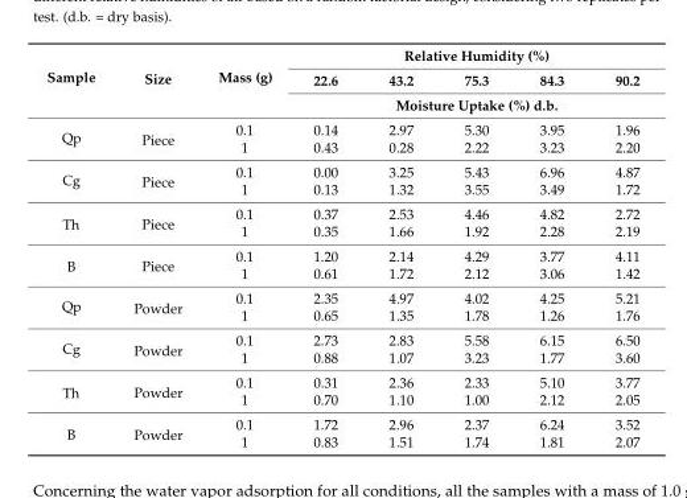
<table><thead><tr><td rowspan="3">Sample</td><td rowspan="3">Size</td><td rowspan="3">Mass (g)</td><td colspan="5">Relative Humidity (%)</td></tr><tr><td>22.6</td><td>43.2</td><td>75.3</td><td>84.3</td><td>90.2</td></tr><tr><td colspan="5">Moisture Uptake (%) d.b.</td></tr></thead><tbody><tr><td rowspan="2">Qp</td><td rowspan="2">Piece</td><td>0.1</td><td>0.14</td><td>2.97</td><td>5.30</td><td>3.95</td><td>1.96</td></tr><tr><td>1</td><td>0.43</td><td>0.28</td><td>2.22</td><td>3.23</td><td>2.20</td></tr><tr><td rowspan="2">Cg</td><td rowspan="2">Piece</td><td>0.1</td><td>0.00</td><td>3.25</td><td>5.43</td><td>6.96</td><td>4.87</td></tr><tr><td>1</td><td>0.13</td><td>1.32</td><td>3.55</td><td>3.49</td><td>1.72</td></tr><tr><td rowspan="2">Th</td><td rowspan="2">Piece</td><td>0.1</td><td>0.37</td><td>2.53</td><td>4.46</td><td>4.82</td><td>2.72</td></tr><tr><td>1</td><td>0.35</td><td>1.66</td><td>1.92</td><td>2.28</td><td>2.19</td></tr><tr><td rowspan="2">B</td><td rowspan="2">Piece</td><td>0.1</td><td>1.20</td><td>2.14</td><td>4.29</td><td>3.77</td><td>4.11</td></tr><tr><td>1</td><td>0.61</td><td>1.72</td><td>2.12</td><td>3.06</td><td>1.42</td></tr><tr><td rowspan="2">Qp</td><td rowspan="2">Powder</td><td>0.1</td><td>2.35</td><td>4.97</td><td>4.02</td><td>4.25</td><td>5.21</td></tr><tr><td>1</td><td>0.65</td><td>1.35</td><td>1.78</td><td>1.26</td><td>1.76</td></tr><tr><td rowspan="2">Cg</td><td rowspan="2">Powder</td><td>0.1</td><td>2.73</td><td>2.83</td><td>5.58</td><td>6.15</td><td>6.50</td></tr><tr><td>1</td><td>0.88</td><td>1.07</td><td>3.23</td><td>1.77</td><td>3.60</td></tr><tr><td rowspan="2">Th</td><td rowspan="2">Powder</td><td>0.1</td><td>0.31</td><td>2.36</td><td>2.33</td><td>5.10</td><td>3.77</td></tr><tr><td>1</td><td>0.70</td><td>1.10</td><td>1.00</td><td>2.12</td><td>2.05</td></tr><tr><td rowspan="2">B</td><td rowspan="2">Powder</td><td>0.1</td><td>1.72</td><td>2.96</td><td>2.37</td><td>6.24</td><td>3.52</td></tr><tr><td>1</td><td>0.83</td><td>1.51</td><td>1.74</td><td>1.81</td><td>2.07</td></tr></tbody></table>